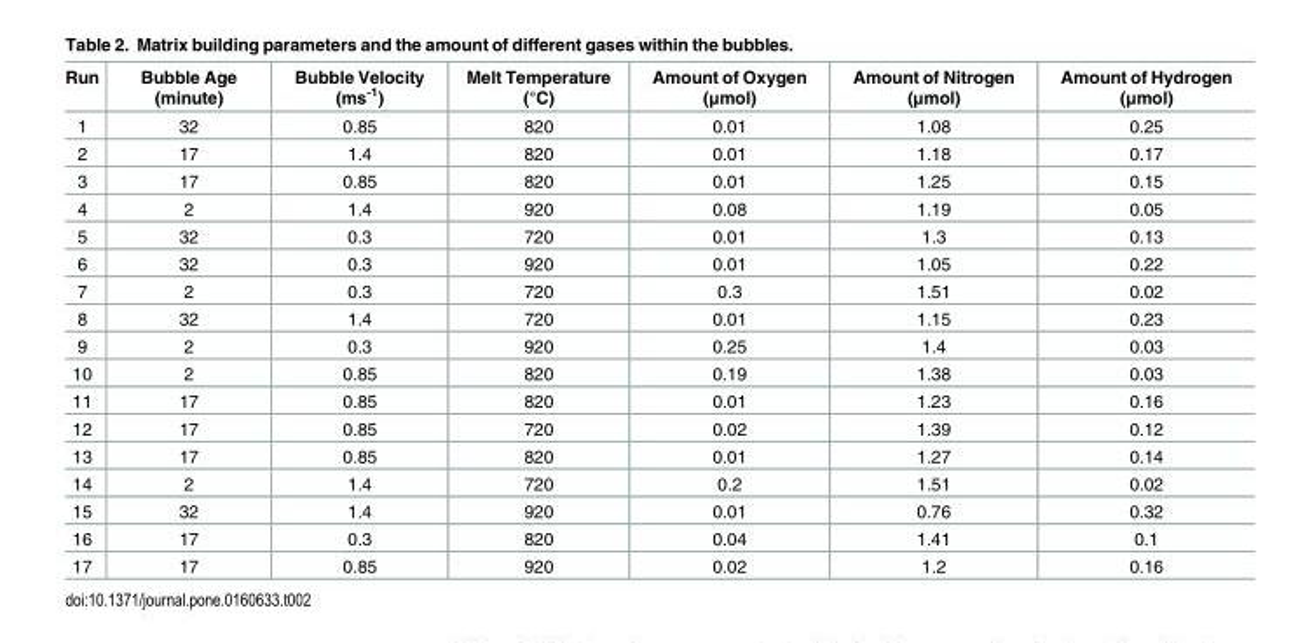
<table><thead><tr><td>Run</td><td>Bubble Age (minute)</td><td>Bubble Velocity (ms<sup>-1</sup>)</td><td>Melt Temperature (°C)</td><td>Amount of Oxygen (μmol)</td><td>Amount of Nitrogen (μmol)</td><td>Amount of Hydrogen (μmol)</td></tr></thead><tbody><tr><td>1</td><td>32</td><td>0.85</td><td>820</td><td>0.01</td><td>1.08</td><td>0.25</td></tr><tr><td>2</td><td>17</td><td>1.4</td><td>820</td><td>0.01</td><td>1.18</td><td>0.17</td></tr><tr><td>3</td><td>17</td><td>0.85</td><td>820</td><td>0.01</td><td>1.25</td><td>0.15</td></tr><tr><td>4</td><td>2</td><td>1.4</td><td>920</td><td>0.08</td><td>1.19</td><td>0.05</td></tr><tr><td>5</td><td>32</td><td>0.3</td><td>720</td><td>0.01</td><td>1.3</td><td>0.13</td></tr><tr><td>6</td><td>32</td><td>0.3</td><td>920</td><td>0.01</td><td>1.05</td><td>0.22</td></tr><tr><td>7</td><td>2</td><td>0.3</td><td>720</td><td>0.3</td><td>1.51</td><td>0.02</td></tr><tr><td>8</td><td>32</td><td>1.4</td><td>720</td><td>0.01</td><td>1.15</td><td>0.23</td></tr><tr><td>9</td><td>2</td><td>0.3</td><td>920</td><td>0.25</td><td>1.4</td><td>0.03</td></tr><tr><td>10</td><td>2</td><td>0.85</td><td>820</td><td>0.19</td><td>1.38</td><td>0.03</td></tr><tr><td>11</td><td>17</td><td>0.85</td><td>820</td><td>0.01</td><td>1.23</td><td>0.16</td></tr><tr><td>12</td><td>17</td><td>0.85</td><td>720</td><td>0.02</td><td>1.39</td><td>0.12</td></tr><tr><td>13</td><td>17</td><td>0.85</td><td>820</td><td>0.01</td><td>1.27</td><td>0.14</td></tr><tr><td>14</td><td>2</td><td>1.4</td><td>720</td><td>0.2</td><td>1.51</td><td>0.02</td></tr><tr><td>15</td><td>32</td><td>1.4</td><td>920</td><td>0.01</td><td>0.76</td><td>0.32</td></tr><tr><td>16</td><td>17</td><td>0.3</td><td>820</td><td>0.04</td><td>1.41</td><td>0.1</td></tr><tr><td>17</td><td>17</td><td>0.85</td><td>920</td><td>0.02</td><td>1.2</td><td>0.16</td></tr></tbody></table>